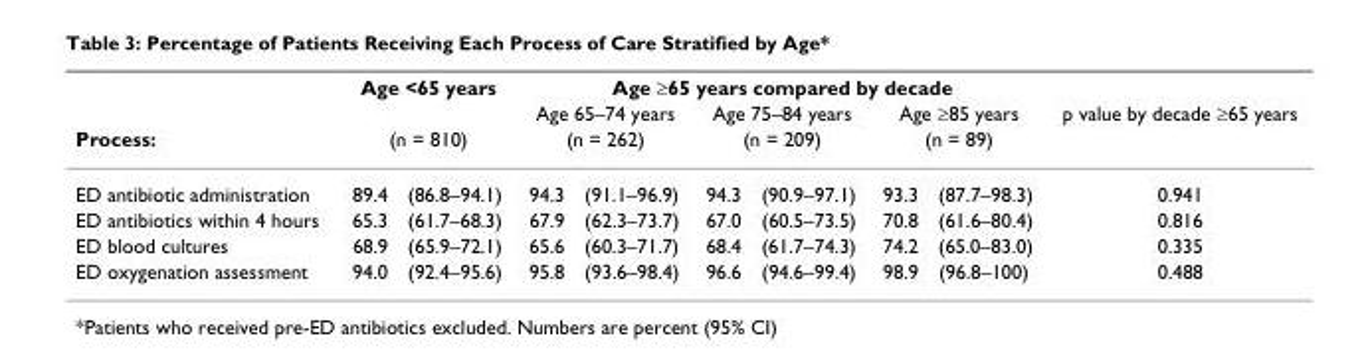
<table><thead><tr><td rowspan="4">Process: ED antibiotic administration</td><td colspan="2">Age &lt;65 years</td><td colspan="6">Age ≥65 years compared by decade</td><td rowspan="4">p value by decade ≥65 years 0.941</td></tr><tr><td></td><td></td><td rowspan="2" colspan="2">Age 65–74 years (n = 262)</td><td rowspan="2" colspan="2">Age 75–84 years (n = 209)</td><td rowspan="2" colspan="2">Age ≥85 years (n = 89)</td></tr><tr><td colspan="2">(n = 810)</td></tr><tr><td>89.4</td><td>(86.8–94.1)</td><td>94.3</td><td>(91.1–96.9)</td><td>94.3</td><td>(90.9–97.1)</td><td>93.3</td><td>(87.7–98.3)</td></tr></thead><tbody><tr><td>ED antibiotics within 4 hours</td><td>65.3</td><td>(61.7–68.3)</td><td>67.9</td><td>(62.3–73.7)</td><td>67.0</td><td>(60.5–73.5)</td><td>70.8</td><td>(61.6–80.4)</td><td>0.816</td></tr><tr><td>ED blood cultures</td><td>68.9</td><td>(65.9–72.1)</td><td>65.6</td><td>(60.3–71.7)</td><td>68.4</td><td>(61.7–74.3)</td><td>74.2</td><td>(65.0–83.0)</td><td>0.335</td></tr><tr><td>ED oxygenation assessment</td><td>94.0</td><td>(92.4–95.6)</td><td>95.8</td><td>(93.6–98.4)</td><td>96.6</td><td>(94.6–99.4)</td><td>98.9</td><td>(96.8–100)</td><td>0.488</td></tr></tbody></table>